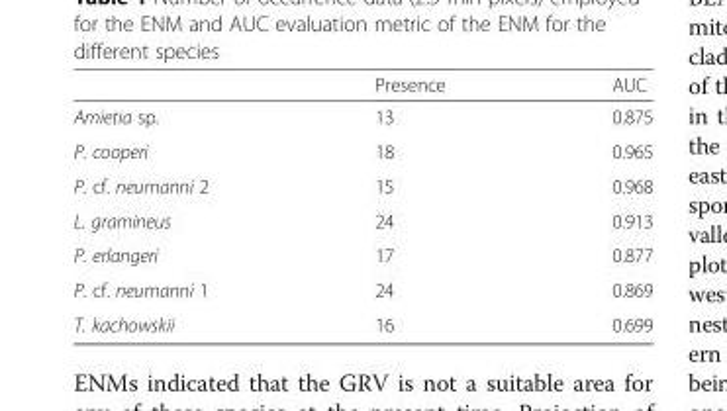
<table><thead><tr><td></td><td>Presence</td><td>AUC</td></tr></thead><tbody><tr><td>Amietia sp.</td><td>13</td><td>0.875</td></tr><tr><td>P. cooperi</td><td>18</td><td>0.965</td></tr><tr><td>P. cf. neumanni 2</td><td>15</td><td>0.968</td></tr><tr><td>L. gramineus</td><td>24</td><td>0.913</td></tr><tr><td>P. erlangeri</td><td>17</td><td>0.877</td></tr><tr><td>P. cf. neumanni 1</td><td>24</td><td>0.869</td></tr><tr><td>T. kachowskii</td><td>16</td><td>0.699</td></tr></tbody></table>